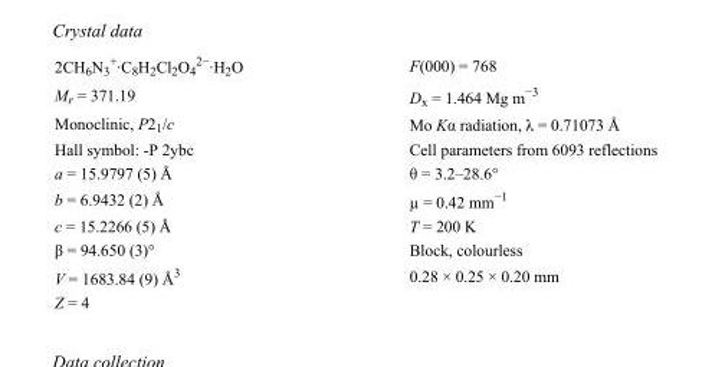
<table><tbody><tr><td>2CH<sub>6</sub>N<sub>3</sub> <sup>+</sup>·C<sub>8</sub>H<sub>2</sub>Cl<sub>2</sub>O<sub>4</sub> <sup>2−</sup>·H<sub>2</sub>O</td><td>F(000) = 768</td></tr><tr><td>M<sub>r</sub> = 371.19</td><td>D<sub>x</sub> = 1.464 Mg m<sup>−3</sup></td></tr><tr><td>Monoclinic, P2<sub>1</sub>/c</td><td>Mo Kα radiation, λ = 0.71073 Å</td></tr><tr><td>Hall symbol: -P 2ybc</td><td>Cell parameters from 6093 reflections</td></tr><tr><td>a = 15.9797 (5) Å</td><td>θ = 3.2–28.6°</td></tr><tr><td>b = 6.9432 (2) Å</td><td>µ = 0.42 mm<sup>−1</sup></td></tr><tr><td>c = 15.2266 (5) Å</td><td>T = 200 K</td></tr><tr><td>β = 94.650 (3)°</td><td>Block, colourless</td></tr><tr><td>V = 1683.84 (9) Å<sup>3</sup></td><td>0.28 × 0.25 × 0.20 mm</td></tr><tr><td>Z = 4</td><td></td></tr></tbody></table>